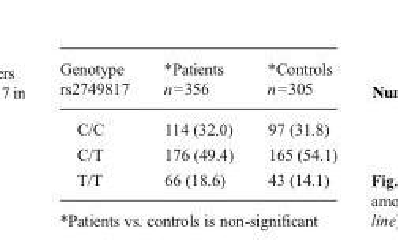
<table><thead><tr><td rowspan="2">Genotype rs2749817</td><td rowspan="2">*Patients n=356</td><td rowspan="2">*Controls n=305</td></tr><tr></tr></thead><tbody><tr><td>C/C</td><td>114 (32.0)</td><td>97 (31.8)</td></tr><tr><td>C/T</td><td>176 (49.4)</td><td>165 (54.1)</td></tr><tr><td>T/T</td><td>66 (18.6)</td><td>43 (14.1)</td></tr></tbody></table>